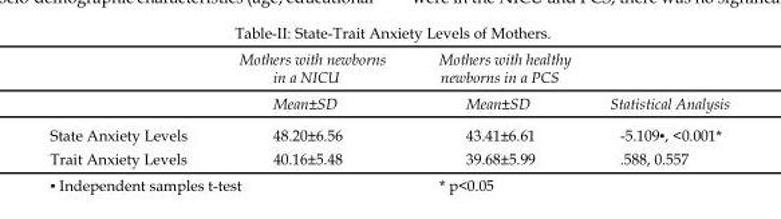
<table><thead><tr><td rowspan="2"></td><td rowspan="2">Mothers with newborns in a NICU Mean±SD</td><td rowspan="2">Mothers with healthy newborns in a PCS Mean±SD</td><td rowspan="2">Statistical Analysis</td></tr><tr></tr></thead><tbody><tr><td>State Anxiety Levels</td><td>48.20±6.56</td><td>43.41±6.61</td><td>-5.109▪, &lt;0.001*</td></tr><tr><td>Trait Anxiety Levels</td><td>40.16±5.48</td><td>39.68±5.99</td><td>.588, 0.557</td></tr></tbody></table>